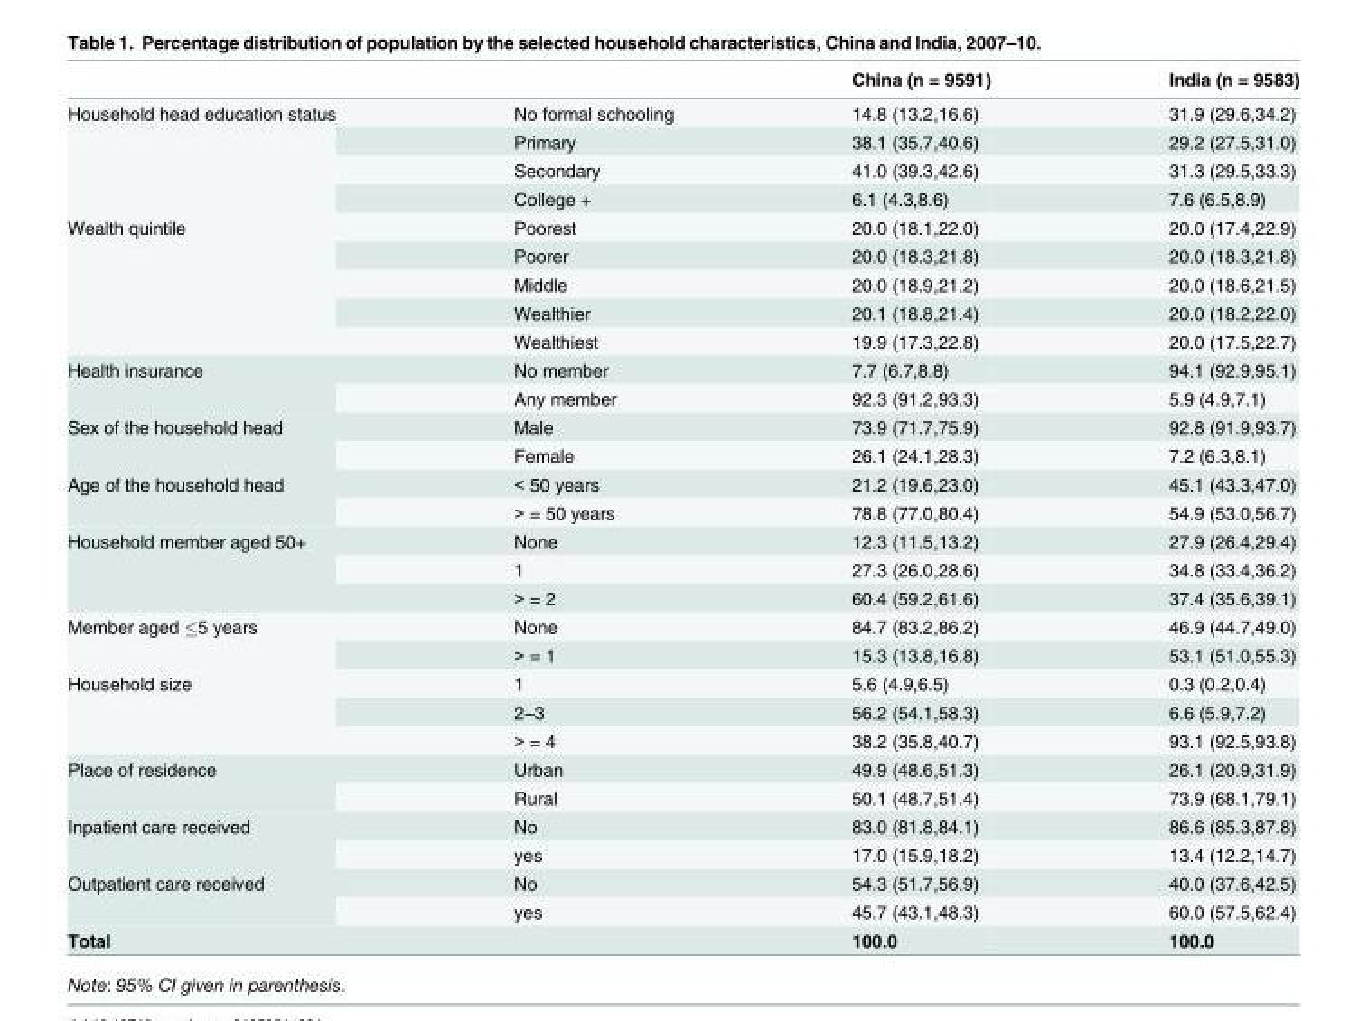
<table><thead><tr><td></td><td></td><td>China (n = 9591)</td><td>India (n = 9583)</td></tr></thead><tbody><tr><td rowspan="4">Household head education status</td><td>No formal schooling</td><td>14.8 (13.2,16.6)</td><td>31.9 (29.6,34.2)</td></tr><tr><td>Primary</td><td>38.1 (35.7,40.6)</td><td>29.2 (27.5,31.0)</td></tr><tr><td>Secondary</td><td>41.0 (39.3,42.6)</td><td>31.3 (29.5,33.3)</td></tr><tr><td>College +</td><td>6.1 (4.3,8.6)</td><td>7.6 (6.5,8.9)</td></tr><tr><td rowspan="5">Wealth quintile</td><td>Poorest</td><td>20.0 (18.1,22.0)</td><td>20.0 (17.4,22.9)</td></tr><tr><td>Poorer</td><td>20.0 (18.3,21.8)</td><td>20.0 (18.3,21.8)</td></tr><tr><td>Middle</td><td>20.0 (18.9,21.2)</td><td>20.0 (18.6,21.5)</td></tr><tr><td>Wealthier</td><td>20.1 (18.8,21.4)</td><td>20.0 (18.2,22.0)</td></tr><tr><td>Wealthiest</td><td>19.9 (17.3,22.8)</td><td>20.0 (17.5,22.7)</td></tr><tr><td rowspan="2">Health insurance</td><td>No member</td><td>7.7 (6.7,8.8)</td><td>94.1 (92.9,95.1)</td></tr><tr><td>Any member</td><td>92.3 (91.2,93.3)</td><td>5.9 (4.9,7.1)</td></tr><tr><td rowspan="2">Sex of the household head</td><td>Male</td><td>73.9 (71.7,75.9)</td><td>92.8 (91.9,93.7)</td></tr><tr><td>Female</td><td>26.1 (24.1,28.3)</td><td>7.2 (6.3,8.1)</td></tr><tr><td rowspan="2">Age of the household head</td><td>&lt; 50 years</td><td>21.2 (19.6,23.0)</td><td>45.1 (43.3,47.0)</td></tr><tr><td>&gt; = 50 years</td><td>78.8 (77.0,80.4)</td><td>54.9 (53.0,56.7)</td></tr><tr><td rowspan="3">Household member aged 50+</td><td>None</td><td>12.3 (11.5,13.2)</td><td>27.9 (26.4,29.4)</td></tr><tr><td>1</td><td>27.3 (26.0,28.6)</td><td>34.8 (33.4,36.2)</td></tr><tr><td>&gt; = 2</td><td>60.4 (59.2,61.6)</td><td>37.4 (35.6,39.1)</td></tr><tr><td rowspan="2">Member aged ≤5 years</td><td>None</td><td>84.7 (83.2,86.2)</td><td>46.9 (44.7,49.0)</td></tr><tr><td>&gt; = 1</td><td>15.3 (13.8,16.8)</td><td>53.1 (51.0,55.3)</td></tr><tr><td rowspan="3">Household size</td><td>1</td><td>5.6 (4.9,6.5)</td><td>0.3 (0.2,0.4)</td></tr><tr><td>2–3</td><td>56.2 (54.1,58.3)</td><td>6.6 (5.9,7.2)</td></tr><tr><td>&gt; = 4</td><td>38.2 (35.8,40.7)</td><td>93.1 (92.5,93.8)</td></tr><tr><td rowspan="2">Place of residence</td><td>Urban</td><td>49.9 (48.6,51.3)</td><td>26.1 (20.9,31.9)</td></tr><tr><td>Rural</td><td>50.1 (48.7,51.4)</td><td>73.9 (68.1,79.1)</td></tr><tr><td rowspan="2">Inpatient care received</td><td>No</td><td>83.0 (81.8,84.1)</td><td>86.6 (85.3,87.8)</td></tr><tr><td>yes</td><td>17.0 (15.9,18.2)</td><td>13.4 (12.2,14.7)</td></tr><tr><td rowspan="2">Outpatient care received</td><td>No</td><td>54.3 (51.7,56.9)</td><td>40.0 (37.6,42.5)</td></tr><tr><td>yes</td><td>45.7 (43.1,48.3)</td><td>60.0 (57.5,62.4)</td></tr><tr><td>Total</td><td></td><td>100.0</td><td>100.0</td></tr></tbody></table>